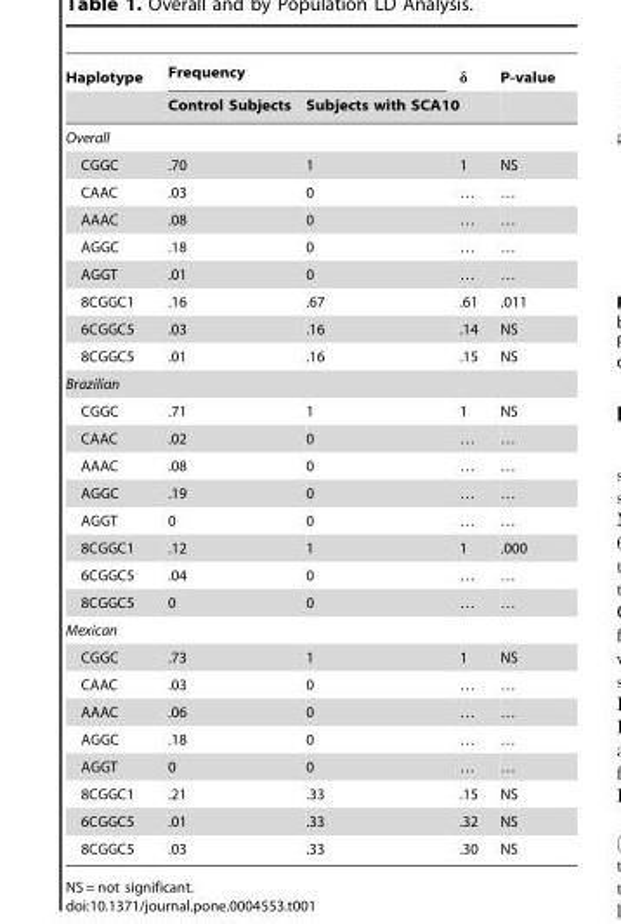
<table><thead><tr><td rowspan="2">Haplotype</td><td colspan="2">Frequency</td><td rowspan="2">δ</td><td rowspan="2">P-value</td></tr><tr><td>Control Subjects</td><td>Subjects with SCA10</td></tr></thead><tbody><tr><td colspan="5">Overall</td></tr><tr><td>CGGC</td><td>.70</td><td>1</td><td>1</td><td>NS</td></tr><tr><td>CAAC</td><td>.03</td><td>0</td><td>…</td><td>…</td></tr><tr><td>AAAC</td><td>.08</td><td>0</td><td>…</td><td>…</td></tr><tr><td>AGGC</td><td>.18</td><td>0</td><td>…</td><td>…</td></tr><tr><td>AGGT</td><td>.01</td><td>0</td><td>…</td><td>…</td></tr><tr><td>8CGGC1</td><td>.16</td><td>.67</td><td>.61</td><td>.011</td></tr><tr><td>6CGGC5</td><td>.03</td><td>.16</td><td>.14</td><td>NS</td></tr><tr><td>8CGGC5</td><td>.01</td><td>.16</td><td>.15</td><td>NS</td></tr><tr><td colspan="5">Brazilian</td></tr><tr><td>CGGC</td><td>.71</td><td>1</td><td>1</td><td>NS</td></tr><tr><td>CAAC</td><td>.02</td><td>0</td><td>…</td><td>…</td></tr><tr><td>AAAC</td><td>.08</td><td>0</td><td>…</td><td>…</td></tr><tr><td>AGGC</td><td>.19</td><td>0</td><td>…</td><td>…</td></tr><tr><td>AGGT</td><td>0</td><td>0</td><td>…</td><td>…</td></tr><tr><td>8CGGC1</td><td>.12</td><td>1</td><td>1</td><td>.000</td></tr><tr><td>6CGGC5</td><td>.04</td><td>0</td><td>…</td><td>…</td></tr><tr><td>8CGGC5</td><td>0</td><td>0</td><td>…</td><td>…</td></tr><tr><td colspan="5">Mexican</td></tr><tr><td>CGGC</td><td>.73</td><td>1</td><td>1</td><td>NS</td></tr><tr><td>CAAC</td><td>.03</td><td>0</td><td>…</td><td>…</td></tr><tr><td>AAAC</td><td>.06</td><td>0</td><td>…</td><td>…</td></tr><tr><td>AGGC</td><td>.18</td><td>0</td><td>…</td><td>…</td></tr><tr><td>AGGT</td><td>0</td><td>0</td><td>…</td><td>…</td></tr><tr><td>8CGGC1</td><td>.21</td><td>.33</td><td>.15</td><td>NS</td></tr><tr><td>6CGGC5</td><td>.01</td><td>.33</td><td>.32</td><td>NS</td></tr><tr><td>8CGGC5</td><td>.03</td><td>.33</td><td>.30</td><td>NS</td></tr></tbody></table>